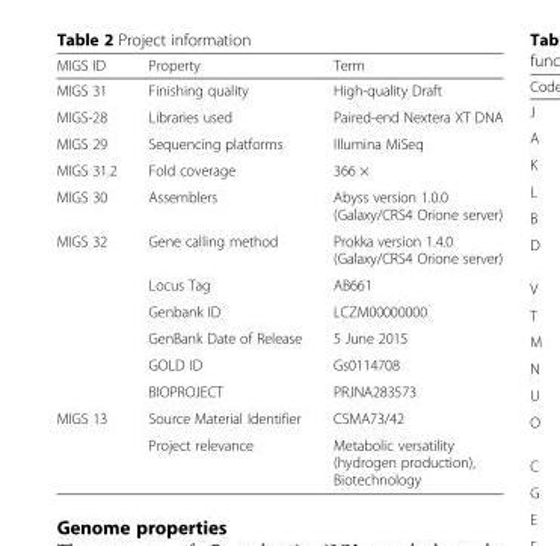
<table><thead><tr><td>MIGS ID</td><td>Property</td><td>Term</td></tr></thead><tbody><tr><td>MIGS 31</td><td>Finishing quality</td><td>High-quality Draft</td></tr><tr><td>MIGS-28</td><td>Libraries used</td><td>Paired-end Nextera XT DNA</td></tr><tr><td>MIGS 29</td><td>Sequencing platforms</td><td>Illumina MiSeq</td></tr><tr><td>MIGS 31.2</td><td>Fold coverage</td><td>366 ×</td></tr><tr><td>MIGS 30</td><td>Assemblers</td><td>Abyss version 1.0.0 (Galaxy/CRS4 Orione server)</td></tr><tr><td rowspan="6">MIGS 32</td><td>Gene calling method</td><td>Prokka version 1.4.0 (Galaxy/CRS4 Orione server)</td></tr><tr><td>Locus Tag</td><td>AB661</td></tr><tr><td>Genbank ID</td><td>LCZM00000000</td></tr><tr><td>GenBank Date of Release</td><td>5 June 2015</td></tr><tr><td>GOLD ID</td><td>Gs0114708</td></tr><tr><td>BIOPROJECT</td><td>PRJNA283573</td></tr><tr><td rowspan="2">MIGS 13</td><td>Source Material Identifier</td><td>CSMA73/42</td></tr><tr><td>Project relevance</td><td>Metabolic versatility (hydrogen production), Biotechnology</td></tr></tbody></table>